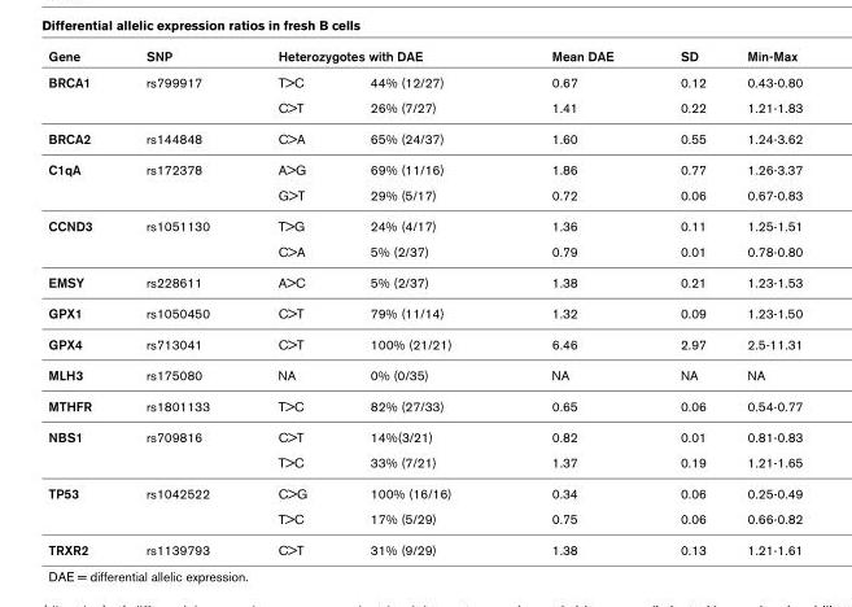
<table><thead><tr><td rowspan="2">Gene BRCA1</td><td rowspan="2">SNP rs799917</td><td colspan="2">Heterozygotes with DAE</td><td rowspan="2">Mean DAE 0.67</td><td rowspan="2">SD 0.12</td><td rowspan="2">Min-Max 0.43-0.80</td></tr><tr><td>T&gt;C</td><td>44% (12/27)</td></tr></thead><tbody><tr><td></td><td></td><td>C&gt;T</td><td>26% (7/27)</td><td>1.41</td><td>0.22</td><td>1.21-1.83</td></tr><tr><td>BRCA2</td><td>rs144848</td><td>C&gt;A</td><td>65% (24/37)</td><td>1.60</td><td>0.55</td><td>1.24-3.62</td></tr><tr><td rowspan="2">C1qA</td><td>rs172378</td><td>A&gt;G</td><td>69% (11/16)</td><td>1.86</td><td>0.77</td><td>1.26-3.37</td></tr><tr><td></td><td>G&gt;T</td><td>29% (5/17)</td><td>0.72</td><td>0.06</td><td>0.67-0.83</td></tr><tr><td rowspan="2">CCND3</td><td>rs1051130</td><td>T&gt;G</td><td>24% (4/17)</td><td>1.36</td><td>0.11</td><td>1.25-1.51</td></tr><tr><td></td><td>C&gt;A</td><td>5% (2/37)</td><td>0.79</td><td>0.01</td><td>0.78-0.80</td></tr><tr><td>EMSY</td><td>rs228611</td><td>A&gt;C</td><td>5% (2/37)</td><td>1.38</td><td>0.21</td><td>1.23-1.53</td></tr><tr><td>GPX1</td><td>rs1050450</td><td>C&gt;T</td><td>79% (11/14)</td><td>1.32</td><td>0.09</td><td>1.23-1.50</td></tr><tr><td>GPX4</td><td>rs713041</td><td>C&gt;T</td><td>100% (21/21)</td><td>6.46</td><td>2.97</td><td>2.5-11.31</td></tr><tr><td>MLH3</td><td>rs175080</td><td>NA</td><td>0% (0/35)</td><td>NA</td><td>NA</td><td>NA</td></tr><tr><td>MTHFR</td><td>rs1801133</td><td>T&gt;C</td><td>82% (27/33)</td><td>0.65</td><td>0.06</td><td>0.54-0.77</td></tr><tr><td rowspan="2">NBS1</td><td>rs709816</td><td>C&gt;T</td><td>14%(3/21)</td><td>0.82</td><td>0.01</td><td>0.81-0.83</td></tr><tr><td></td><td>T&gt;C</td><td>33% (7/21)</td><td>1.37</td><td>0.19</td><td>1.21-1.65</td></tr><tr><td rowspan="2">TP53</td><td>rs1042522</td><td>C&gt;G</td><td>100% (16/16)</td><td>0.34</td><td>0.06</td><td>0.25-0.49</td></tr><tr><td></td><td>T&gt;C</td><td>17% (5/29)</td><td>0.75</td><td>0.06</td><td>0.66-0.82</td></tr><tr><td>TRXR2</td><td>rs1139793</td><td>C&gt;T</td><td>31% (9/29)</td><td>1.38</td><td>0.13</td><td>1.21-1.61</td></tr></tbody></table>